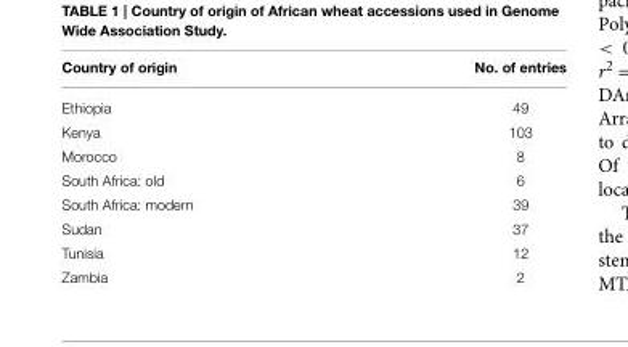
<table><thead><tr><td>Country of origin</td><td>No. of entries</td></tr></thead><tbody><tr><td>Ethiopia</td><td>49</td></tr><tr><td>Kenya</td><td>103</td></tr><tr><td>Morocco</td><td>8</td></tr><tr><td>South Africa: old</td><td>6</td></tr><tr><td>South Africa: modern</td><td>39</td></tr><tr><td>Sudan</td><td>37</td></tr><tr><td>Tunisia</td><td>12</td></tr><tr><td>Zambia</td><td>2</td></tr></tbody></table>